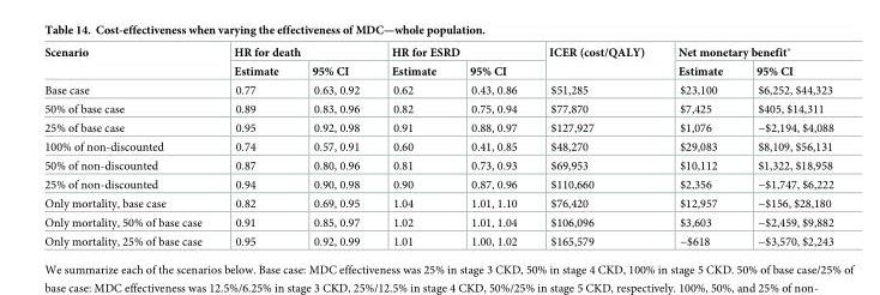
<table><thead><tr><td rowspan="2">Scenario</td><td colspan="2">HR for death</td><td colspan="2">HR for ESRD</td><td rowspan="2">ICER (cost/QALY)</td><td colspan="2">Net monetary benefit*</td></tr><tr><td>Estimate</td><td>95% CI</td><td>Estimate</td><td>95% CI</td><td>Estimate</td><td>95% CI</td></tr></thead><tbody><tr><td>Base case</td><td>0.77</td><td>0.63, 0.92</td><td>0.62</td><td>0.43, 0.86</td><td>$51,285</td><td>$23,100</td><td>$6,252, $44,323</td></tr><tr><td>50% of base case</td><td>0.89</td><td>0.83, 0.96</td><td>0.82</td><td>0.75, 0.94</td><td>$77,870</td><td>$7,425</td><td>$405, $14,311</td></tr><tr><td>25% of base case</td><td>0.95</td><td>0.92, 0.98</td><td>0.91</td><td>0.88, 0.97</td><td>$127,927</td><td>$1,076</td><td>−$2,194, $4,088</td></tr><tr><td>100% of non-discounted</td><td>0.74</td><td>0.57, 0.91</td><td>0.60</td><td>0.41, 0.85</td><td>$48,270</td><td>$29,083</td><td>$8,109, $56,131</td></tr><tr><td>50% of non-discounted</td><td>0.87</td><td>0.80, 0.96</td><td>0.81</td><td>0.73, 0.93</td><td>$69,953</td><td>$10,112</td><td>$1,322, $18,958</td></tr><tr><td>25% of non-discounted</td><td>0.94</td><td>0.90, 0.98</td><td>0.90</td><td>0.87, 0.96</td><td>$110,660</td><td>$2,356</td><td>−$1,747, $6,222</td></tr><tr><td>Only mortality, base case</td><td>0.82</td><td>0.69, 0.95</td><td>1.04</td><td>1.01, 1.10</td><td>$76,420</td><td>$12,957</td><td>−$156, $28,180</td></tr><tr><td>Only mortality, 50% of base case</td><td>0.91</td><td>0.85, 0.97</td><td>1.02</td><td>1.01, 1.04</td><td>$106,096</td><td>$3,603</td><td>−$2,459, $9,882</td></tr><tr><td>Only mortality, 25% of base case</td><td>0.95</td><td>0.92, 0.99</td><td>1.01</td><td>1.00, 1.02</td><td>$165,579</td><td>−$618</td><td>−$3,570, $2,243</td></tr></tbody></table>